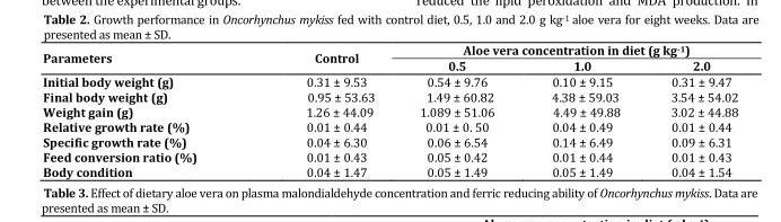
<table><thead><tr><td rowspan="2">Parameters</td><td rowspan="2">Control</td><td colspan="3">Aloe vera concentration in diet (g kg<sup>-1</sup>)</td></tr><tr><td>0.5</td><td>1.0</td><td>2.0</td></tr></thead><tbody><tr><td>Initial body weight (g)</td><td>0.31 ± 9.53</td><td>0.54 ± 9.76</td><td>0.10 ± 9.15</td><td>0.31 ± 9.47</td></tr><tr><td>Final body weight (g)</td><td>0.95 ± 53.63</td><td>1.49 ± 60.82</td><td>4.38 ± 59.03</td><td>3.54 ± 54.02</td></tr><tr><td>Weight gain (g)</td><td>1.26 ± 44.09</td><td>1.089 ± 51.06</td><td>4.49 ± 49.88</td><td>3.02 ± 44.88</td></tr><tr><td>Relative growth rate (%)</td><td>0.01 ± 0.44</td><td>0.01 ± 0. 50</td><td>0.04 ± 0.49</td><td>0.01 ± 0.44</td></tr><tr><td>Specific growth rate (%)</td><td>0.04 ± 6.30</td><td>0.06 ± 6.54</td><td>0.14 ± 6.49</td><td>0.09 ± 6.31</td></tr><tr><td>Feed conversion ratio (%)</td><td>0.01 ± 0.43</td><td>0.05 ± 0.42</td><td>0.01 ± 0.44</td><td>0.01 ± 0.43</td></tr><tr><td>Body condition</td><td>0.04 ± 1.47</td><td>0.05 ± 1.49</td><td>0.05 ± 1.49</td><td>0.04 ± 1.54</td></tr></tbody></table>